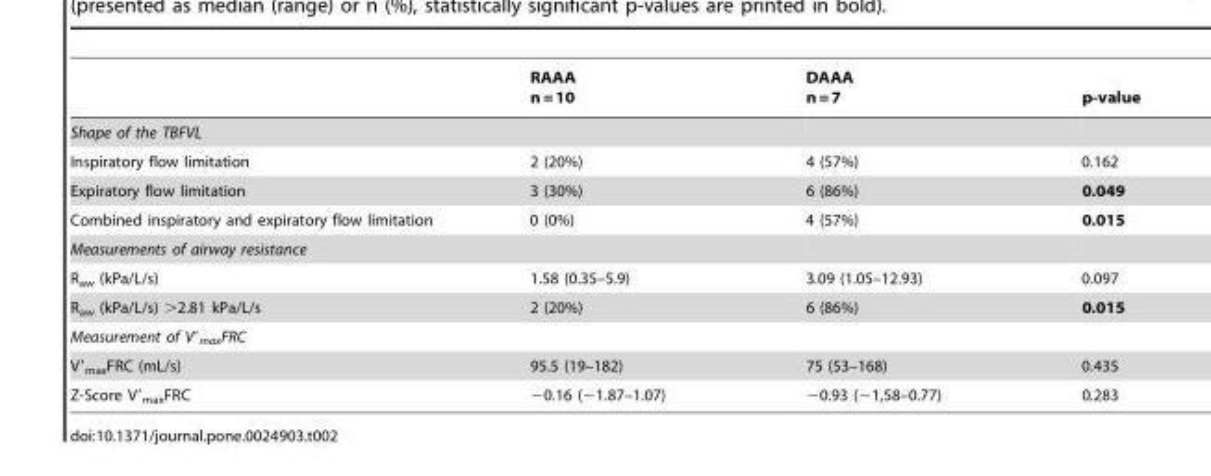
<table><thead><tr><td></td><td>RAAA n = 10</td><td>DAAA n = 7</td><td>p-value</td></tr></thead><tbody><tr><td colspan="4">Shape of the TBFVL</td></tr><tr><td>Inspiratory flow limitation</td><td>2 (20%)</td><td>4 (57%)</td><td>0.162</td></tr><tr><td>Expiratory flow limitation</td><td>3 (30%)</td><td>6 (86%)</td><td>0.049</td></tr><tr><td>Combined inspiratory and expiratory flow limitation</td><td>0 (0%)</td><td>4 (57%)</td><td>0.015</td></tr><tr><td colspan="4">Measurements of airway resistance</td></tr><tr><td>R<sub>aw</sub> (kPa/L/s)</td><td>1.58 (0.35–5.9)</td><td>3.09 (1.05–12.93)</td><td>0.097</td></tr><tr><td>R<sub>aw</sub> (kPa/L/s) &gt;2.81 kPa/L/s</td><td>2 (20%)</td><td>6 (86%)</td><td>0.015</td></tr><tr><td colspan="4">Measurement of V′<sub>max</sub>FRC</td></tr><tr><td>V′<sub>max</sub>FRC (mL/s)</td><td>95.5 (19–182)</td><td>75 (53–168)</td><td>0.435</td></tr><tr><td>Z-Score V′<sub>max</sub>FRC</td><td>−0.16 (−1.87–1.07)</td><td>−0.93 (−1,58–0.77)</td><td>0.283</td></tr></tbody></table>